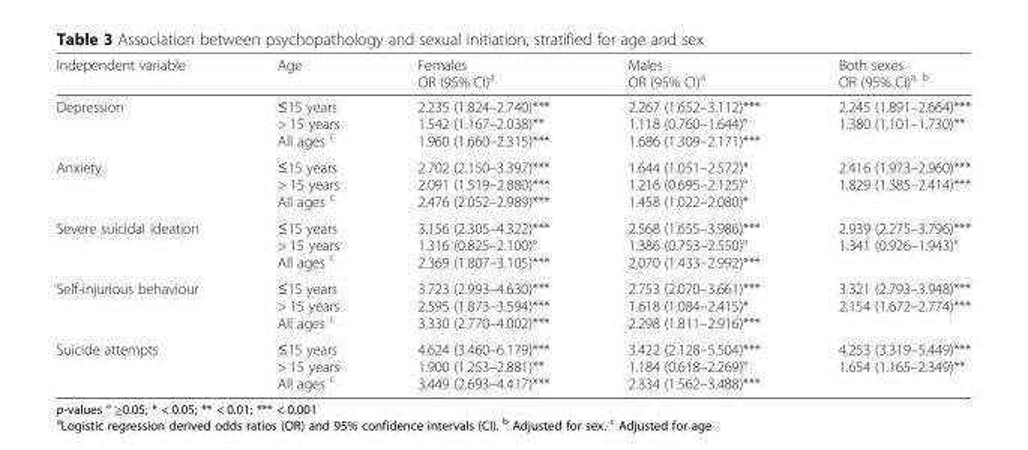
<table><thead><tr><td>Independent variable</td><td>Age</td><td>Females OR (95% CI)<sup>a</sup></td><td>Males OR (95% CI)<sup>a</sup></td><td>Both sexes OR (95% CI)<sup>a, b</sup></td></tr></thead><tbody><tr><td>Depression</td><td>≤15 years &gt; 15 years All ages <sup>c</sup></td><td>2.235 (1.824–2.740)*** 1.542 (1.167–2.038)** 1.960 (1.660–2.315)***</td><td>2.267 (1.652–3.112)*** 1.118 (0.760–1.644)° 1.686 (1.309–2.171)***</td><td>2.245 (1.891–2.664)*** 1.380 (1.101–1.730)**</td></tr><tr><td>Anxiety</td><td>≤15 years &gt; 15 years All ages <sup>c</sup></td><td>2.702 (2.150–3.397)*** 2.091 (1.519–2.880)*** 2.476 (2.052–2.989)***</td><td>1.644 (1.051–2.572)* 1.216 (0.695–2.125)° 1.458 (1.022–2.080)*</td><td>2.416 (1.973–2.960)*** 1.829 (1.385–2.414)***</td></tr><tr><td>Severe suicidal ideation</td><td>≤15 years &gt; 15 years All ages <sup>c</sup></td><td>3.156 (2.305–4.322)*** 1.316 (0.825–2.100)° 2.369 (1.807–3.105)***</td><td>2.568 (1.655–3.986)*** 1.386 (0.753–2.550)° 2.070 (1.433–2.992)***</td><td>2.939 (2.275–3.796)*** 1.341 (0.926–1.943)°</td></tr><tr><td>Self-injurious behaviour</td><td>≤15 years &gt; 15 years All ages <sup>c</sup></td><td>3.723 (2.993–4.630)*** 2.595 (1.873–3.594)*** 3.330 (2.770–4.002)***</td><td>2.753 (2.070–3.661)*** 1.618 (1.084–2.415)* 2.298 (1.811–2.916)***</td><td>3.321 (2.793–3.948)*** 2.154 (1.672–2.774)***</td></tr><tr><td>Suicide attempts</td><td>≤15 years &gt; 15 years All ages <sup>c</sup></td><td>4.624 (3.460–6.179)*** 1.900 (1.253–2.881)** 3.449 (2.693–4.417)***</td><td>3.422 (2.128–5.504)*** 1.184 (0.618–2.269)° 2.334 (1.562–3.488)***</td><td>4.253 (3.319–5.449)*** 1.654 (1.165–2.349)**</td></tr></tbody></table>